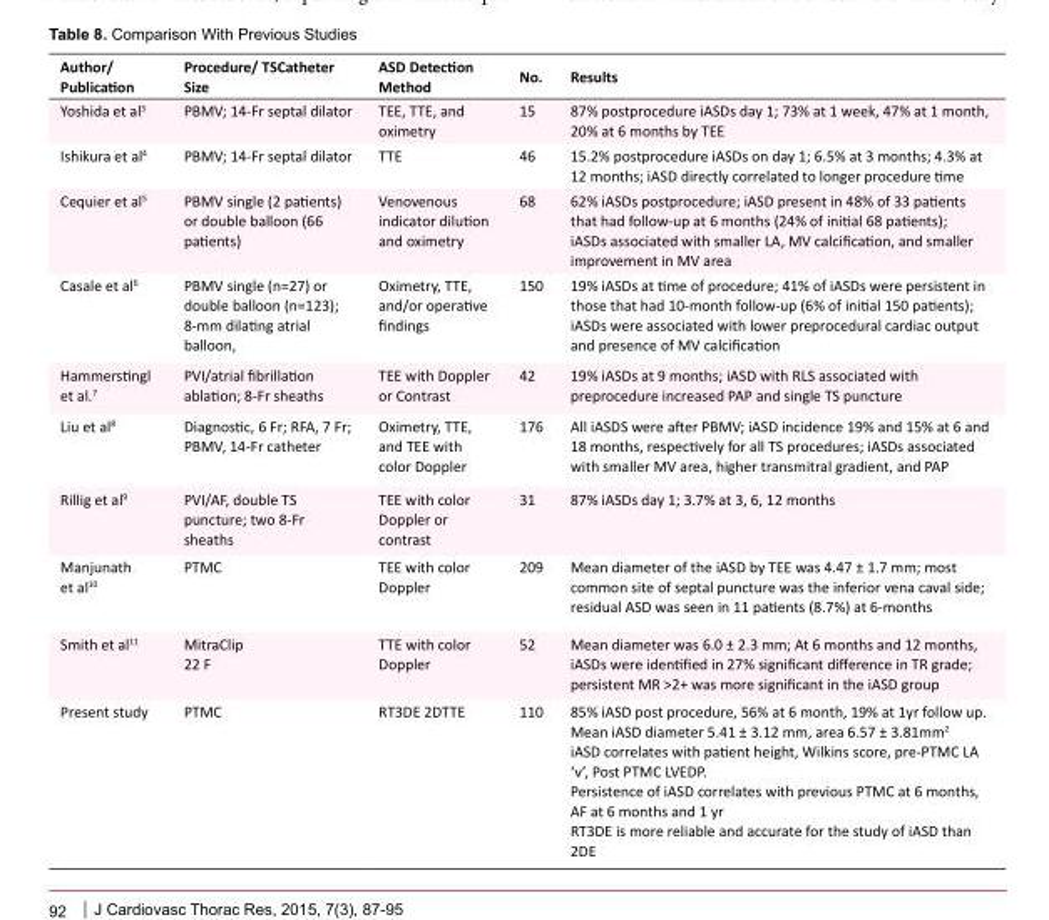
<table><tbody><tr><td>Author/ Publication</td><td>Procedure/ TSCatheter Size</td><td>ASD Detection Method</td><td>No.</td><td>Results</td></tr><tr><td>Yoshida et al<sup>3</sup></td><td>PBMV; 14-Fr septal dilator</td><td>TEE, TTE, and oximetry</td><td>15</td><td>87% postprocedure iASDs day 1; 73% at 1 week, 47% at 1 month, 20% at 6 months by TEE</td></tr><tr><td>Ishikura et al<sup>4</sup></td><td>PBMV; 14-Fr septal dilator</td><td>TTE</td><td>46</td><td>15.2% postprocedure iASDs on day 1; 6.5% at 3 months; 4.3% at 12 months; iASD directly correlated to longer procedure time</td></tr><tr><td>Cequier et al<sup>5</sup></td><td>PBMV single (2 patients) or double balloon (66 patients)</td><td>Venovenous indicator dilution and oximetry</td><td>68</td><td>62% iASDs postprocedure; iASD present in 48% of 33 patients that had follow-up at 6 months (24% of initial 68 patients); iASDs associated with smaller LA, MV calcification, and smaller improvement in MV area</td></tr><tr><td>Casale et al<sup>6</sup></td><td>PBMV single (n=27) or double balloon (n=123); 8-mm dilating atrial balloon,</td><td>Oximetry, TTE, and/or operative findings</td><td>150</td><td>19% iASDs at time of procedure; 41% of iASDs were persistent in those that had 10-month follow-up (6% of initial 150 patients); iASDs were associated with lower preprocedural cardiac output and presence of MV calcification</td></tr><tr><td>Hammerstingl et al.<sup>7</sup></td><td>PVI/atrial fibrillation ablation; 8-Fr sheaths</td><td>TEE with Doppler or Contrast</td><td>42</td><td>19% iASDs at 9 months; iASD with RLS associated with preprocedure increased PAP and single TS puncture</td></tr><tr><td>Liu et al<sup>8</sup></td><td>Diagnostic, 6 Fr; RFA, 7 Fr; PBMV, 14-Fr catheter</td><td>Oximetry, TTE, and TEE with color Doppler</td><td>176</td><td>All iASDS were after PBMV; iASD incidence 19% and 15% at 6 and 18 months, respectively for all TS procedures; iASDs associated with smaller MV area, higher transmitral gradient, and PAP</td></tr><tr><td>Rillig et al<sup>9</sup></td><td>PVI/AF, double TS puncture; two 8-Fr sheaths</td><td>TEE with color Doppler or contrast</td><td>31</td><td>87% iASDs day 1; 3.7% at 3, 6, 12 months</td></tr><tr><td>Manjunath et al<sup>10</sup></td><td>PTMC</td><td>TEE with color Doppler</td><td>209</td><td>Mean diameter of the iASD by TEE was 4.47 ± 1.7 mm; most common site of septal puncture was the inferior vena caval side; residual ASD was seen in 11 patients (8.7%) at 6-months</td></tr><tr><td>Smith et al<sup>11</sup></td><td>MitraClip 22 F</td><td>TTE with color Doppler</td><td>52</td><td>Mean diameter was 6.0 ± 2.3 mm; At 6 months and 12 months, iASDs were identified in 27% significant difference in TR grade; persistent MR &gt;2+ was more significant in the iASD group</td></tr><tr><td>Present study</td><td>PTMC</td><td>RT3DE 2DTTE</td><td>110</td><td>85% iASD post procedure, 56% at 6 month, 19% at 1yr follow up. Mean iASD diameter 5.41 ± 3.12 mm, area 6.57 ± 3.81mm<sup>2</sup> iASD correlates with patient height, Wilkins score, pre-PTMC LA ‘v’, Post PTMC LVEDP. Persistence of iASD correlates with previous PTMC at 6 months, AF at 6 months and 1 yr RT3DE is more reliable and accurate for the study of iASD than 2DE</td></tr></tbody></table>